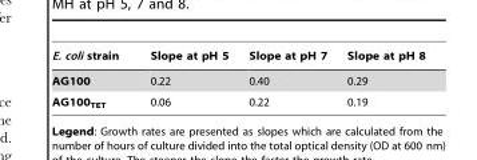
<table><thead><tr><td>E. coli strain</td><td>Slope at pH 5</td><td>Slope at pH 7</td><td>Slope at pH 8</td></tr></thead><tbody><tr><td>AG100</td><td>0.22</td><td>0.40</td><td>0.29</td></tr><tr><td>AG100<sub>TET</sub></td><td>0.06</td><td>0.22</td><td>0.19</td></tr></tbody></table>